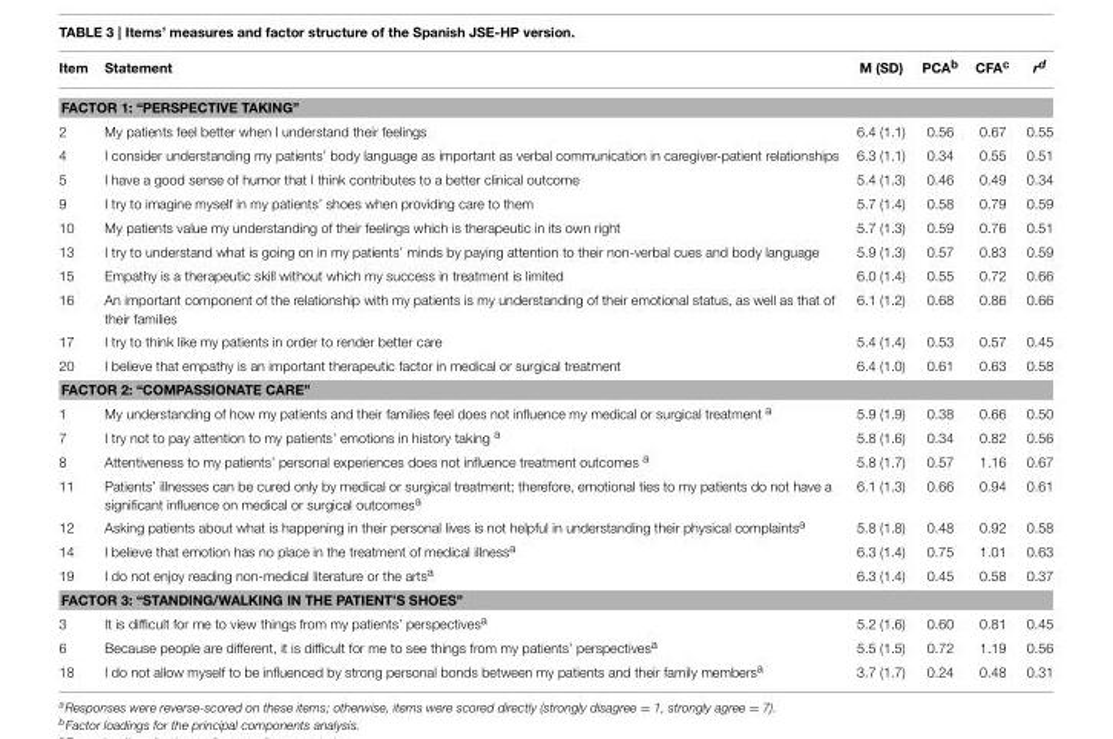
<table><thead><tr><td>Item</td><td>Statement</td><td>M (SD)</td><td>PCA<sup>b</sup></td><td>CFA<sup>c</sup></td><td>r<sup>d</sup></td></tr></thead><tbody><tr><td colspan="6">FACTOR 1: “PERSPECTIVE TAKING”</td></tr><tr><td>2</td><td>My patients feel better when I understand their feelings</td><td>6.4 (1.1)</td><td>0.56</td><td>0.67</td><td>0.55</td></tr><tr><td>4</td><td>I consider understanding my patients’ body language as important as verbal communication in caregiver-patient relationships</td><td>6.3 (1.1)</td><td>0.34</td><td>0.55</td><td>0.51</td></tr><tr><td>5</td><td>I have a good sense of humor that I think contributes to a better clinical outcome</td><td>5.4 (1.3)</td><td>0.46</td><td>0.49</td><td>0.34</td></tr><tr><td>9</td><td>I try to imagine myself in my patients’ shoes when providing care to them</td><td>5.7 (1.4)</td><td>0.58</td><td>0.79</td><td>0.59</td></tr><tr><td>10</td><td>My patients value my understanding of their feelings which is therapeutic in its own right</td><td>5.7 (1.3)</td><td>0.59</td><td>0.76</td><td>0.51</td></tr><tr><td>13</td><td>I try to understand what is going on in my patients’ minds by paying attention to their non-verbal cues and body language</td><td>5.9 (1.3)</td><td>0.57</td><td>0.83</td><td>0.59</td></tr><tr><td>15</td><td>Empathy is a therapeutic skill without which my success in treatment is limited</td><td>6.0 (1.4)</td><td>0.55</td><td>0.72</td><td>0.66</td></tr><tr><td>16</td><td>An important component of the relationship with my patients is my understanding of their emotional status, as well as that of their families</td><td>6.1 (1.2)</td><td>0.68</td><td>0.86</td><td>0.66</td></tr><tr><td>17</td><td>I try to think like my patients in order to render better care</td><td>5.4 (1.4)</td><td>0.53</td><td>0.57</td><td>0.45</td></tr><tr><td>20</td><td>I believe that empathy is an important therapeutic factor in medical or surgical treatment</td><td>6.4 (1.0)</td><td>0.61</td><td>0.63</td><td>0.58</td></tr><tr><td colspan="6">FACTOR 2: “COMPASSIONATE CARE”</td></tr><tr><td>1</td><td>My understanding of how my patients and their families feel does not influence my medical or surgical treatment <sup>a</sup></td><td>5.9 (1.9)</td><td>0.38</td><td>0.66</td><td>0.50</td></tr><tr><td>7</td><td>I try not to pay attention to my patients’ emotions in history taking <sup>a</sup></td><td>5.8 (1.6)</td><td>0.34</td><td>0.82</td><td>0.56</td></tr><tr><td>8</td><td>Attentiveness to my patients’ personal experiences does not influence treatment outcomes <sup>a</sup></td><td>5.8 (1.7)</td><td>0.57</td><td>1.16</td><td>0.67</td></tr><tr><td>11</td><td>Patients’ illnesses can be cured only by medical or surgical treatment; therefore, emotional ties to my patients do not have a significant influence on medical or surgical outcomes<sup>a</sup></td><td>6.1 (1.3)</td><td>0.66</td><td>0.94</td><td>0.61</td></tr><tr><td>12</td><td>Asking patients about what is happening in their personal lives is not helpful in understanding their physical complaints<sup>a</sup></td><td>5.8 (1.8)</td><td>0.48</td><td>0.92</td><td>0.58</td></tr><tr><td>14</td><td>I believe that emotion has no place in the treatment of medical illness<sup>a</sup></td><td>6.3 (1.4)</td><td>0.75</td><td>1.01</td><td>0.63</td></tr><tr><td>19</td><td>I do not enjoy reading non-medical literature or the arts<sup>a</sup></td><td>6.3 (1.4)</td><td>0.45</td><td>0.58</td><td>0.37</td></tr><tr><td colspan="6">FACTOR 3: “STANDING/WALKING IN THE PATIENT’S SHOES”</td></tr><tr><td>3</td><td>It is difficult for me to view things from my patients’ perspectives<sup>a</sup></td><td>5.2 (1.6)</td><td>0.60</td><td>0.81</td><td>0.45</td></tr><tr><td>6</td><td>Because people are different, it is difficult for me to see things from my patients’ perspectives<sup>a</sup></td><td>5.5 (1.5)</td><td>0.72</td><td>1.19</td><td>0.56</td></tr><tr><td>18</td><td>I do not allow myself to be influenced by strong personal bonds between my patients and their family members<sup>a</sup></td><td>3.7 (1.7)</td><td>0.24</td><td>0.48</td><td>0.31</td></tr></tbody></table>